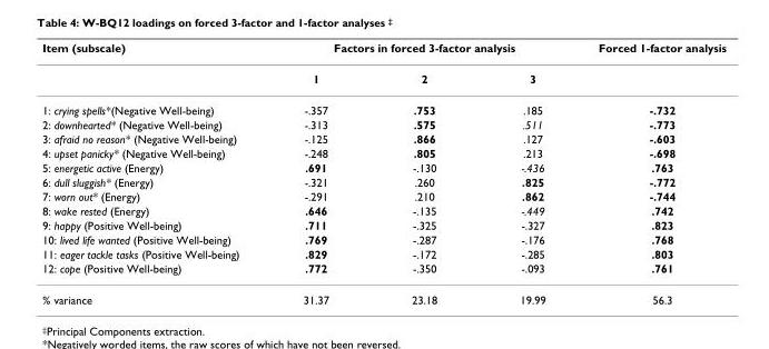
<table><thead><tr><td rowspan="2">Item (subscale)</td><td colspan="3">Factors in forced 3-factor analysis</td><td rowspan="2">Forced 1-factor analysis</td></tr><tr><td>1</td><td>2</td><td>3</td></tr></thead><tbody><tr><td>1: crying spells*(Negative Well-being)</td><td>-.357</td><td>.753</td><td>.185</td><td>-.732</td></tr><tr><td>2: downhearted* (Negative Well-being)</td><td>-.313</td><td>.575</td><td>.511</td><td>-.773</td></tr><tr><td>3: afraid no reason* (Negative Well-being)</td><td>-.125</td><td>.866</td><td>.127</td><td>-.603</td></tr><tr><td>4: upset panicky* (Negative Well-being)</td><td>-.248</td><td>.805</td><td>.213</td><td>-.698</td></tr><tr><td>5: energetic active (Energy)</td><td>.691</td><td>-.130</td><td>-.436</td><td>.763</td></tr><tr><td>6: dull sluggish* (Energy)</td><td>-.321</td><td>.260</td><td>.825</td><td>-.772</td></tr><tr><td>7: worn out* (Energy)</td><td>-.291</td><td>.210</td><td>.862</td><td>-.744</td></tr><tr><td>8: wake rested (Energy)</td><td>.646</td><td>-.135</td><td>-.449</td><td>.742</td></tr><tr><td>9: happy (Positive Well-being)</td><td>.711</td><td>-.325</td><td>-.327</td><td>.823</td></tr><tr><td>10: lived life wanted (Positive Well-being)</td><td>.769</td><td>-.287</td><td>-.176</td><td>.768</td></tr><tr><td>11: eager tackle tasks (Positive Well-being)</td><td>.829</td><td>-.172</td><td>-.285</td><td>.803</td></tr><tr><td>12: cope (Positive Well-being)</td><td>.772</td><td>-.350</td><td>-.093</td><td>.761</td></tr><tr><td>% variance</td><td>31.37</td><td>23.18</td><td>19.99</td><td>56.3</td></tr></tbody></table>